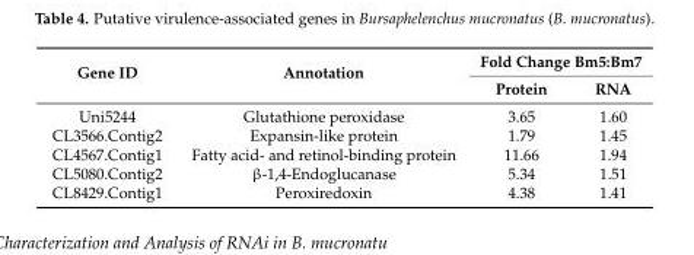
<table><thead><tr><td rowspan="2">Gene ID</td><td rowspan="2">Annotation</td><td colspan="2">Fold Change Bm5:Bm7</td></tr><tr><td>Protein</td><td>RNA</td></tr></thead><tbody><tr><td>Uni5244</td><td>Glutathione peroxidase</td><td>3.65</td><td>1.60</td></tr><tr><td>CL3566.Contig2</td><td>Expansin-like protein</td><td>1.79</td><td>1.45</td></tr><tr><td>CL4567.Contig1</td><td>Fatty acid- and retinol-binding protein</td><td>11.66</td><td>1.94</td></tr><tr><td>CL5080.Contig2</td><td>β-1,4-Endoglucanase</td><td>5.34</td><td>1.51</td></tr><tr><td>CL8429.Contig1</td><td>Peroxiredoxin</td><td>4.38</td><td>1.41</td></tr></tbody></table>